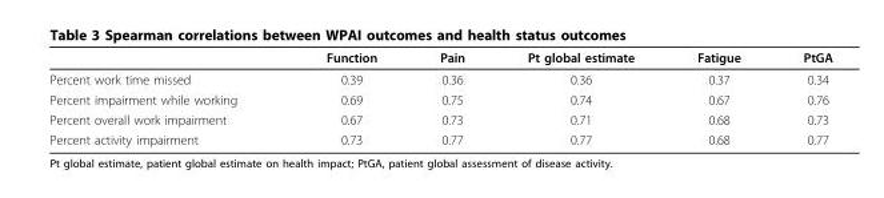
<table><thead><tr><td></td><td>Function</td><td>Pain</td><td>Pt global estimate</td><td>Fatigue</td><td>PtGA</td></tr></thead><tbody><tr><td>Percent work time missed</td><td>0.39</td><td>0.36</td><td>0.36</td><td>0.37</td><td>0.34</td></tr><tr><td>Percent impairment while working</td><td>0.69</td><td>0.75</td><td>0.74</td><td>0.67</td><td>0.76</td></tr><tr><td>Percent overall work impairment</td><td>0.67</td><td>0.73</td><td>0.71</td><td>0.68</td><td>0.73</td></tr><tr><td>Percent activity impairment</td><td>0.73</td><td>0.77</td><td>0.77</td><td>0.68</td><td>0.77</td></tr></tbody></table>